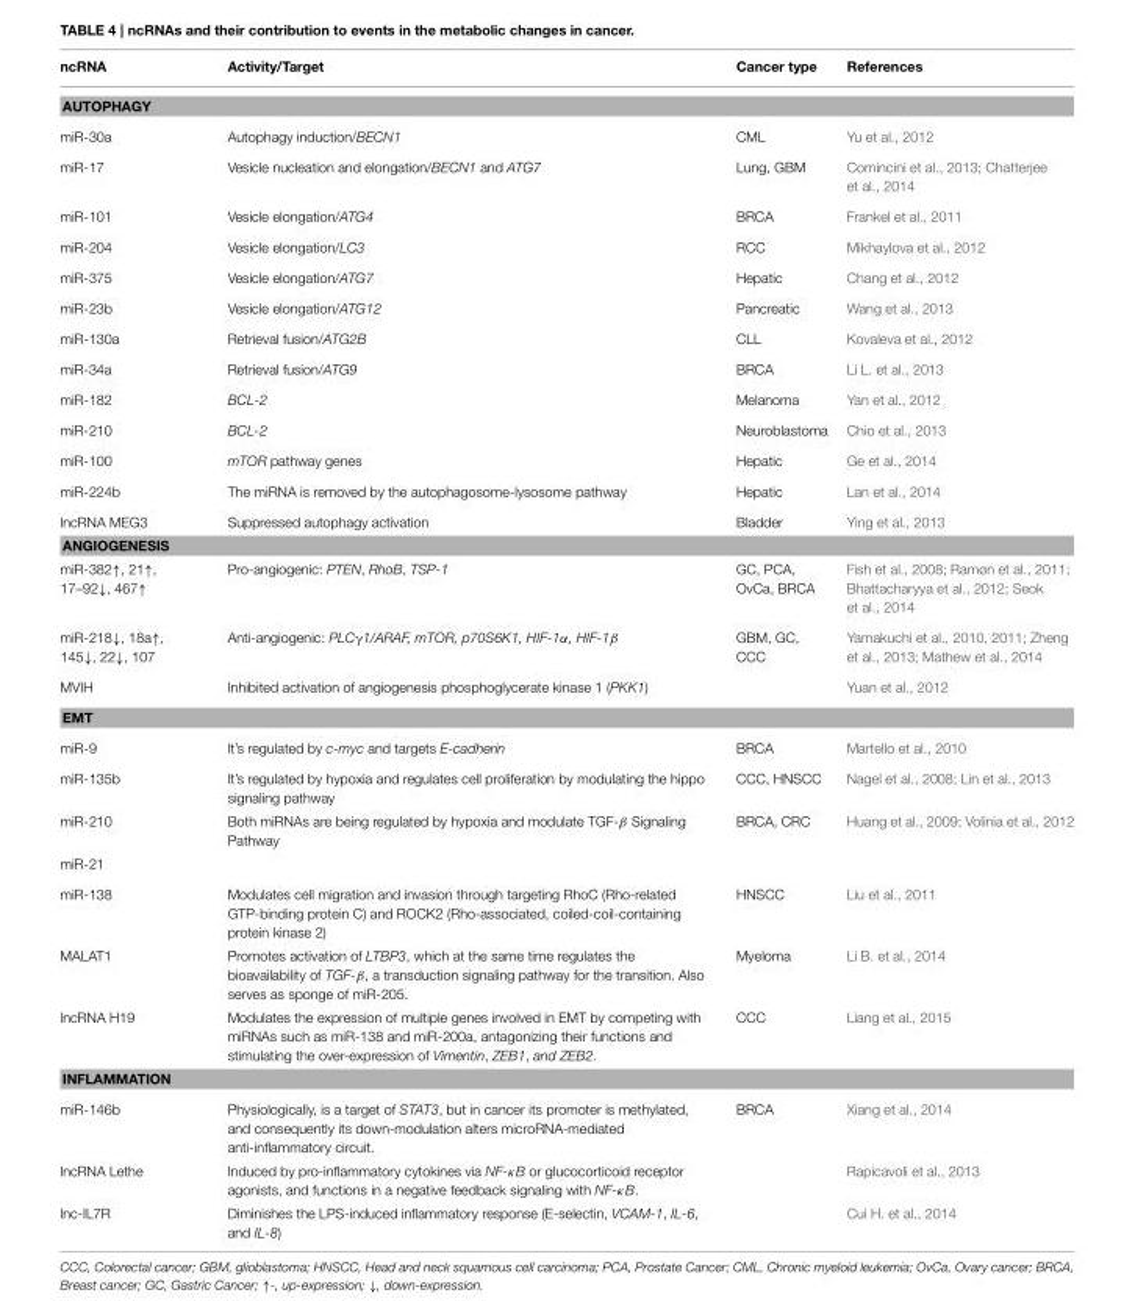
<table><thead><tr><td>ncRNA</td><td>Activity/Target</td><td>Cancer type</td><td>References</td></tr></thead><tbody><tr><td colspan="4">AUTOPHAGY</td></tr><tr><td>miR-30a</td><td>Autophagy induction/BECN1</td><td>CML</td><td>Yu et al., 2012</td></tr><tr><td>miR-17</td><td>Vesicle nucleation and elongation/BECN1 and ATG7</td><td>Lung, GBM</td><td>Comincini et al., 2013; Chatterjee et al., 2014</td></tr><tr><td>miR-101</td><td>Vesicle elongation/ATG4</td><td>BRCA</td><td>Frankel et al., 2011</td></tr><tr><td>miR-204</td><td>Vesicle elongation/LC3</td><td>RCC</td><td>Mikhaylova et al., 2012</td></tr><tr><td>miR-375</td><td>Vesicle elongation/ATG7</td><td>Hepatic</td><td>Chang et al., 2012</td></tr><tr><td>miR-23b</td><td>Vesicle elongation/ATG12</td><td>Pancreatic</td><td>Wang et al., 2013</td></tr><tr><td>miR-130a</td><td>Retrieval fusion/ATG2B</td><td>CLL</td><td>Kovaleva et al., 2012</td></tr><tr><td>miR-34a</td><td>Retrieval fusion/ATG9</td><td>BRCA</td><td>Li L. et al., 2013</td></tr><tr><td>miR-182</td><td>BCL-2</td><td>Melanoma</td><td>Yan et al., 2012</td></tr><tr><td>miR-210</td><td>BCL-2</td><td>Neuroblastoma</td><td>Chio et al., 2013</td></tr><tr><td>miR-100</td><td>mTOR pathway genes</td><td>Hepatic</td><td>Ge et al., 2014</td></tr><tr><td>miR-224b</td><td>The miRNA is removed by the autophagosome-lysosome pathway</td><td>Hepatic</td><td>Lan et al., 2014</td></tr><tr><td>lncRNA MEG3</td><td>Suppressed autophagy activation</td><td>Bladder</td><td>Ying et al., 2013</td></tr><tr><td colspan="4">ANGIOGENESIS</td></tr><tr><td>miR-382↑, 21↑, 17–92↓, 467↑</td><td>Pro-angiogenic: PTEN, RhoB, TSP-1</td><td>GC, PCA, OvCa, BRCA</td><td>Fish et al., 2008; Ramøn et al., 2011; Bhattacharyya et al., 2012; Seok et al., 2014</td></tr><tr><td>miR-218↓, 18a↑, 145↓, 22↓, 107</td><td>Anti-angiogenic: PLC<sub>γ</sub>1/ARAF, mTOR, p70S6K1, HIF-1α, HIF-1β</td><td>GBM, GC, CCC</td><td>Yamakuchi et al., 2010, 2011; Zheng et al., 2013; Mathew et al., 2014</td></tr><tr><td>MVIH</td><td>Inhibited activation of angiogenesis phosphoglycerate kinase 1 (PKK1)</td><td></td><td>Yuan et al., 2012</td></tr><tr><td colspan="4">EMT</td></tr><tr><td>miR-9</td><td>It’s regulated by c-myc and targets E-cadherin</td><td>BRCA</td><td>Martello et al., 2010</td></tr><tr><td>miR-135b</td><td>It’s regulated by hypoxia and regulates cell proliferation by modulating the hippo signaling pathway</td><td>CCC, HNSCC</td><td>Nagel et al., 2008; Lin et al., 2013</td></tr><tr><td>miR-210</td><td>Both miRNAs are being regulated by hypoxia and modulate TGF-β Signaling Pathway</td><td>BRCA, CRC</td><td>Huang et al., 2009; Volinia et al., 2012</td></tr><tr><td colspan="4">miR-21</td></tr><tr><td>miR-138</td><td>Modulates cell migration and invasion through targeting RhoC (Rho-related GTP-binding protein C) and ROCK2 (Rho-associated, coiled-coil-containing protein kinase 2)</td><td>HNSCC</td><td>Liu et al., 2011</td></tr><tr><td>MALAT1</td><td>Promotes activation of LTBP3, which at the same time regulates the bioavailability of TGF-β, a transduction signaling pathway for the transition. Also serves as sponge of miR-205.</td><td>Myeloma</td><td>Li B. et al., 2014</td></tr><tr><td>lncRNA H19</td><td>Modulates the expression of multiple genes involved in EMT by competing with miRNAs such as miR-138 and miR-200a, antagonizing their functions and stimulating the over-expression of Vimentin, ZEB1, and ZEB2.</td><td>CCC</td><td>Liang et al., 2015</td></tr><tr><td colspan="4">INFLAMMATION</td></tr><tr><td>miR-146b</td><td>Physiologically, is a target of STAT3, but in cancer its promoter is methylated, and consequently its down-modulation alters microRNA-mediated anti-inflammatory circuit.</td><td>BRCA</td><td>Xiang et al., 2014</td></tr><tr><td>lncRNA Lethe</td><td>Induced by pro-inflammatory cytokines via NF-κB or glucocorticoid receptor agonists, and functions in a negative feedback signaling with NF-κB.</td><td></td><td>Rapicavoli et al., 2013</td></tr><tr><td>lnc-IL7R</td><td>Diminishes the LPS-induced inflammatory response (E-selectin, VCAM-1, IL-6, and IL-8)</td><td></td><td>Cui H. et al., 2014</td></tr></tbody></table>